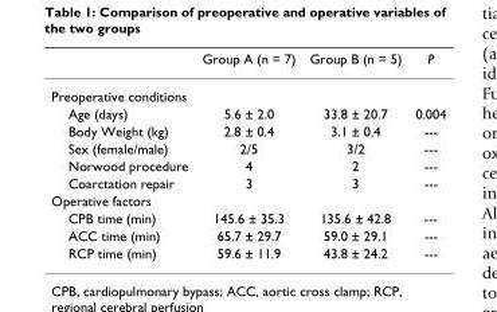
<table><thead><tr><td></td><td>Group A (n = 7)</td><td>Group B (n = 5)</td><td>P</td></tr></thead><tbody><tr><td colspan="4">Preoperative conditions</td></tr><tr><td>Age (days)</td><td>5.6 ± 2.0</td><td>33.8 ± 20.7</td><td>0.004</td></tr><tr><td>Body Weight (kg)</td><td>2.8 ± 0.4</td><td>3.1 ± 0.4</td><td>---</td></tr><tr><td>Sex (female/male)</td><td>2/5</td><td>3/2</td><td>---</td></tr><tr><td>Norwood procedure</td><td>4</td><td>2</td><td>---</td></tr><tr><td>Coarctation repair</td><td>3</td><td>3</td><td>---</td></tr><tr><td colspan="4">Operative factors</td></tr><tr><td>CPB time (min)</td><td>145.6 ± 35.3</td><td>135.6 ± 42.8</td><td>---</td></tr><tr><td>ACC time (min)</td><td>65.7 ± 29.7</td><td>59.0 ± 29.1</td><td>---</td></tr><tr><td>RCP time (min)</td><td>59.6 ± 11.9</td><td>43.8 ± 24.2</td><td>---</td></tr></tbody></table>